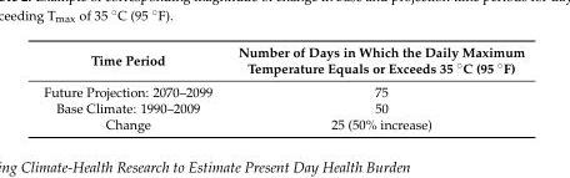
<table><thead><tr><td>Time Period</td><td>Number of Days in Which the Daily Maximum Temperature Equals or Exceeds 35 ˝C (95 ˝F)</td></tr></thead><tbody><tr><td>Future Projection: 2070–2099</td><td>75</td></tr><tr><td>Base Climate: 1990–2009</td><td>50</td></tr><tr><td>Change</td><td>25 (50% increase)</td></tr></tbody></table>